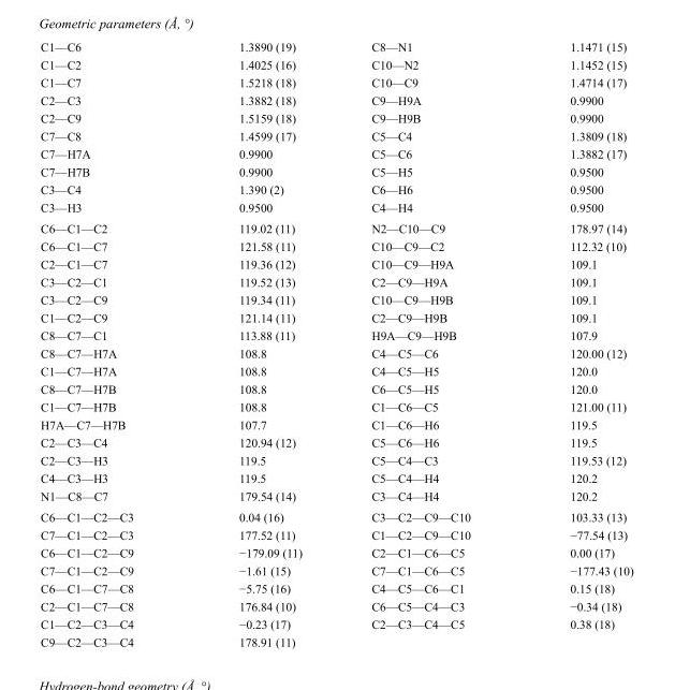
<table><tbody><tr><td>C1—C6</td><td>1.3890 (19)</td><td>C8—N1</td><td>1.1471 (15)</td></tr><tr><td>C1—C2</td><td>1.4025 (16)</td><td>C10—N2</td><td>1.1452 (15)</td></tr><tr><td>C1—C7</td><td>1.5218 (18)</td><td>C10—C9</td><td>1.4714 (17)</td></tr><tr><td>C2—C3</td><td>1.3882 (18)</td><td>C9—H9A</td><td>0.9900</td></tr><tr><td>C2—C9</td><td>1.5159 (18)</td><td>C9—H9B</td><td>0.9900</td></tr><tr><td>C7—C8</td><td>1.4599 (17)</td><td>C5—C4</td><td>1.3809 (18)</td></tr><tr><td>C7—H7A</td><td>0.9900</td><td>C5—C6</td><td>1.3882 (17)</td></tr><tr><td>C7—H7B</td><td>0.9900</td><td>C5—H5</td><td>0.9500</td></tr><tr><td>C3—C4</td><td>1.390 (2)</td><td>C6—H6</td><td>0.9500</td></tr><tr><td>C3—H3</td><td>0.9500</td><td>C4—H4</td><td>0.9500</td></tr><tr><td>C6—C1—C2</td><td>119.02 (11)</td><td>N2—C10—C9</td><td>178.97 (14)</td></tr><tr><td>C6—C1—C7</td><td>121.58 (11)</td><td>C10—C9—C2</td><td>112.32 (10)</td></tr><tr><td>C2—C1—C7</td><td>119.36 (12)</td><td>C10—C9—H9A</td><td>109.1</td></tr><tr><td>C3—C2—C1</td><td>119.52 (13)</td><td>C2—C9—H9A</td><td>109.1</td></tr><tr><td>C3—C2—C9</td><td>119.34 (11)</td><td>C10—C9—H9B</td><td>109.1</td></tr><tr><td>C1—C2—C9</td><td>121.14 (11)</td><td>C2—C9—H9B</td><td>109.1</td></tr><tr><td>C8—C7—C1</td><td>113.88 (11)</td><td>H9A—C9—H9B</td><td>107.9</td></tr><tr><td>C8—C7—H7A</td><td>108.8</td><td>C4—C5—C6</td><td>120.00 (12)</td></tr><tr><td>C1—C7—H7A</td><td>108.8</td><td>C4—C5—H5</td><td>120.0</td></tr><tr><td>C8—C7—H7B</td><td>108.8</td><td>C6—C5—H5</td><td>120.0</td></tr><tr><td>C1—C7—H7B</td><td>108.8</td><td>C1—C6—C5</td><td>121.00 (11)</td></tr><tr><td>H7A—C7—H7B</td><td>107.7</td><td>C1—C6—H6</td><td>119.5</td></tr><tr><td>C2—C3—C4</td><td>120.94 (12)</td><td>C5—C6—H6</td><td>119.5</td></tr><tr><td>C2—C3—H3</td><td>119.5</td><td>C5—C4—C3</td><td>119.53 (12)</td></tr><tr><td>C4—C3—H3</td><td>119.5</td><td>C5—C4—H4</td><td>120.2</td></tr><tr><td>N1—C8—C7</td><td>179.54 (14)</td><td>C3—C4—H4</td><td>120.2</td></tr><tr><td>C6—C1—C2—C3</td><td>0.04 (16)</td><td>C3—C2—C9—C10</td><td>103.33 (13)</td></tr><tr><td>C7—C1—C2—C3</td><td>177.52 (11)</td><td>C1—C2—C9—C10</td><td>−77.54 (13)</td></tr><tr><td>C6—C1—C2—C9</td><td>−179.09 (11)</td><td>C2—C1—C6—C5</td><td>0.00 (17)</td></tr><tr><td>C7—C1—C2—C9</td><td>−1.61 (15)</td><td>C7—C1—C6—C5</td><td>−177.43 (10)</td></tr><tr><td>C6—C1—C7—C8</td><td>−5.75 (16)</td><td>C4—C5—C6—C1</td><td>0.15 (18)</td></tr><tr><td>C2—C1—C7—C8</td><td>176.84 (10)</td><td>C6—C5—C4—C3</td><td>−0.34 (18)</td></tr><tr><td>C1—C2—C3—C4</td><td>−0.23 (17)</td><td>C2—C3—C4—C5</td><td>0.38 (18)</td></tr><tr><td>C9—C2—C3—C4</td><td>178.91 (11)</td><td></td><td></td></tr></tbody></table>